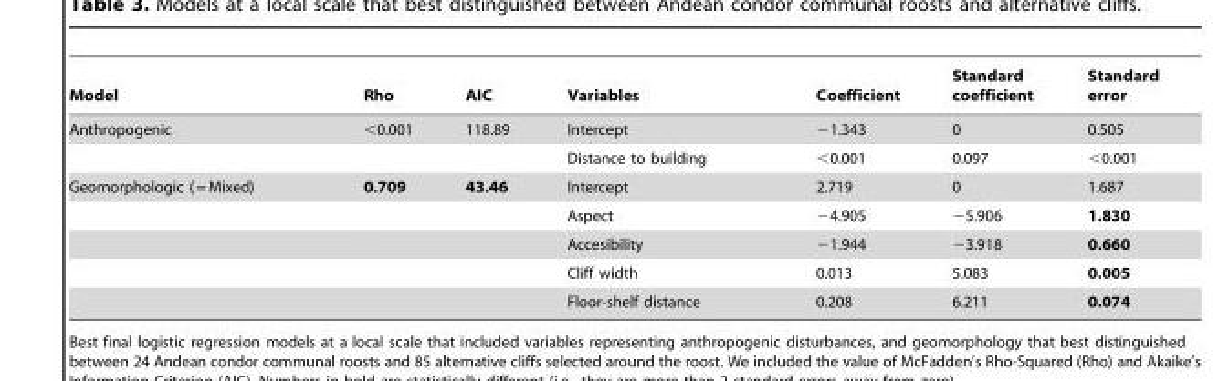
<table><thead><tr><td>Model</td><td>Rho</td><td>AIC</td><td>Variables</td><td>Coefficient</td><td>Standard coefficient</td><td>Standard error</td></tr></thead><tbody><tr><td rowspan="2">Anthropogenic</td><td>&lt;0.001</td><td>118.89</td><td>Intercept</td><td>−1.343</td><td>0</td><td>0.505</td></tr><tr><td></td><td></td><td>Distance to building</td><td>&lt;0.001</td><td>0.097</td><td>&lt;0.001</td></tr><tr><td rowspan="5">Geomorphologic ( = Mixed)</td><td>0.709</td><td>43.46</td><td>Intercept</td><td>2.719</td><td>0</td><td>1.687</td></tr><tr><td></td><td></td><td>Aspect</td><td>−4.905</td><td>−5.906</td><td>1.830</td></tr><tr><td></td><td></td><td>Accesibility</td><td>−1.944</td><td>−3.918</td><td>0.660</td></tr><tr><td></td><td></td><td>Cliff width</td><td>0.013</td><td>5.083</td><td>0.005</td></tr><tr><td></td><td></td><td>Floor-shelf distance</td><td>0.208</td><td>6.211</td><td>0.074</td></tr></tbody></table>